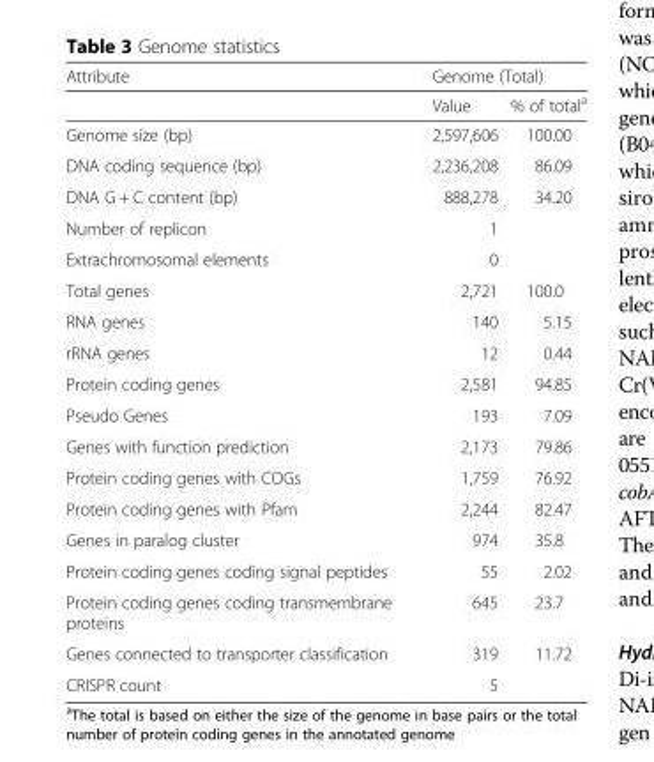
<table><thead><tr><td rowspan="2">Attribute</td><td colspan="2">Genome (Total)</td></tr><tr><td>Value</td><td>% of total<sup>a</sup></td></tr></thead><tbody><tr><td>Genome size (bp)</td><td>2,597,606</td><td>100.00</td></tr><tr><td>DNA coding sequence (bp)</td><td>2,236,208</td><td>86.09</td></tr><tr><td>DNA G + C content (bp)</td><td>888,278</td><td>34.20</td></tr><tr><td>Number of replicon</td><td>1</td><td></td></tr><tr><td>Extrachromosomal elements</td><td>0</td><td></td></tr><tr><td>Total genes</td><td>2,721</td><td>100.0</td></tr><tr><td>RNA genes</td><td>140</td><td>5.15</td></tr><tr><td>rRNA genes</td><td>12</td><td>0.44</td></tr><tr><td>Protein coding genes</td><td>2,581</td><td>94.85</td></tr><tr><td>Pseudo Genes</td><td>193</td><td>7.09</td></tr><tr><td>Genes with function prediction</td><td>2,173</td><td>79.86</td></tr><tr><td>Protein coding genes with COGs</td><td>1,759</td><td>76.92</td></tr><tr><td>Protein coding genes with Pfam</td><td>2,244</td><td>82.47</td></tr><tr><td>Genes in paralog cluster</td><td>974</td><td>35.8</td></tr><tr><td>Protein coding genes coding signal peptides</td><td>55</td><td>2.02</td></tr><tr><td>Protein coding genes coding transmembrane proteins</td><td>645</td><td>23.7</td></tr><tr><td>Genes connected to transporter classification</td><td>319</td><td>11.72</td></tr><tr><td>CRISPR count</td><td>5</td><td></td></tr></tbody></table>